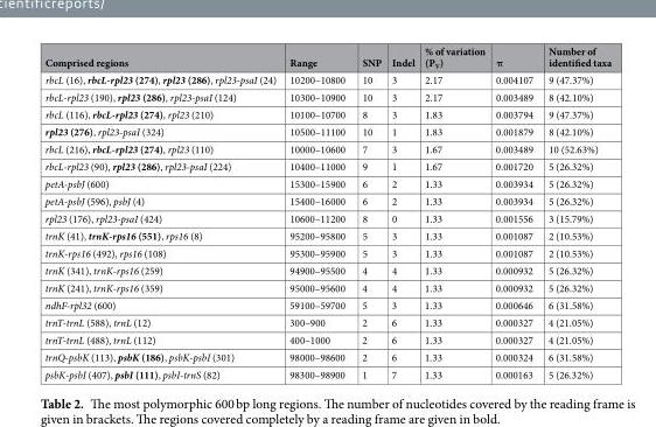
<table><thead><tr><td>Comprised regions</td><td>Range</td><td>SNP</td><td>Indel</td><td>% of variation (P<sub>V</sub>)</td><td>π</td><td>Number of identified taxa</td></tr></thead><tbody><tr><td>rbcL (16), rbcL-rpl23 (274), rpl23 (286), rpl23-psaI (24)</td><td>10200–10800</td><td>10</td><td>3</td><td>2.17</td><td>0.004107</td><td>9 (47.37%)</td></tr><tr><td>rbcL-rpl23 (190), rpl23 (286), rpl23-psaI (124)</td><td>10300–10900</td><td>10</td><td>3</td><td>2.17</td><td>0.003489</td><td>8 (42.10%)</td></tr><tr><td>rbcL (116), rbcL-rpl23 (274), rpl23 (210)</td><td>10100–10700</td><td>8</td><td>3</td><td>1.83</td><td>0.003794</td><td>9 (47.37%)</td></tr><tr><td>rpl23 (276), rpl23-psaI (324)</td><td>10500–11100</td><td>10</td><td>1</td><td>1.83</td><td>0.001879</td><td>8 (42.10%)</td></tr><tr><td>rbcL (216), rbcL-rpl23 (274), rpl23 (110)</td><td>10000–10600</td><td>7</td><td>3</td><td>1.67</td><td>0.003489</td><td>10 (52.63%)</td></tr><tr><td>rbcL-rpl23 (90), rpl23 (286), rpl23-psaI (224)</td><td>10400–11000</td><td>9</td><td>1</td><td>1.67</td><td>0.001720</td><td>5 (26.32%)</td></tr><tr><td>petA-psbJ (600)</td><td>15300–15900</td><td>6</td><td>2</td><td>1.33</td><td>0.003934</td><td>5 (26.32%)</td></tr><tr><td>petA-psbJ (596), psbJ (4)</td><td>15400–16000</td><td>6</td><td>2</td><td>1.33</td><td>0.003934</td><td>5 (26.32%)</td></tr><tr><td>rpl23 (176), rpl23-psaI (424)</td><td>10600–11200</td><td>8</td><td>0</td><td>1.33</td><td>0.001556</td><td>3 (15.79%)</td></tr><tr><td>trnK (41), trnK-rps16 (551), rps16 (8)</td><td>95200–95800</td><td>5</td><td>3</td><td>1.33</td><td>0.001087</td><td>2 (10.53%)</td></tr><tr><td>trnK-rps16 (492), rps16 (108)</td><td>95300–95900</td><td>5</td><td>3</td><td>1.33</td><td>0.001087</td><td>2 (10.53%)</td></tr><tr><td>trnK (341), trnK-rps16 (259)</td><td>94900–95500</td><td>4</td><td>4</td><td>1.33</td><td>0.000932</td><td>5 (26.32%)</td></tr><tr><td>trnK (241), trnK-rps16 (359)</td><td>95000–95600</td><td>4</td><td>4</td><td>1.33</td><td>0.000932</td><td>5 (26.32%)</td></tr><tr><td>ndhF-rpl32 (600)</td><td>59100–59700</td><td>5</td><td>3</td><td>1.33</td><td>0.000646</td><td>6 (31.58%)</td></tr><tr><td>trnT-trnL (588), trnL (12)</td><td>300–900</td><td>2</td><td>6</td><td>1.33</td><td>0.000327</td><td>4 (21.05%)</td></tr><tr><td>trnT-trnL (488), trnL (112)</td><td>400–1000</td><td>2</td><td>6</td><td>1.33</td><td>0.000327</td><td>4 (21.05%)</td></tr><tr><td>trnQ-psbK (113), psbK (186), psbK-psbI (301)</td><td>98000–98600</td><td>2</td><td>6</td><td>1.33</td><td>0.000324</td><td>6 (31.58%)</td></tr><tr><td>psbK-psbI (407), psbI (111), psbI-trnS (82)</td><td>98300–98900</td><td>1</td><td>7</td><td>1.33</td><td>0.000163</td><td>5 (26.32%)</td></tr></tbody></table>